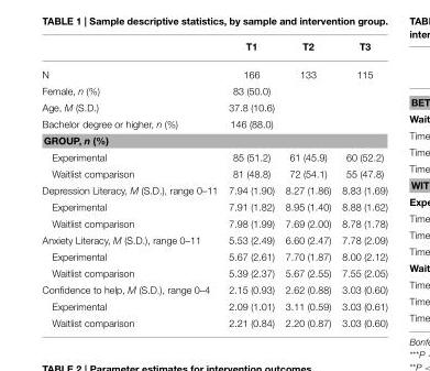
<table><thead><tr><td></td><td>T1</td><td>T2</td><td>T3</td></tr></thead><tbody><tr><td>N</td><td>166</td><td>133</td><td>115</td></tr><tr><td>Female, n (%)</td><td>83 (50.0)</td><td></td><td></td></tr><tr><td>Age, M (S.D.)</td><td>37.8 (10.6)</td><td></td><td></td></tr><tr><td>Bachelor degree or higher, n (%)</td><td>146 (88.0)</td><td></td><td></td></tr><tr><td colspan="4">GROUP, n (%)</td></tr><tr><td>Experimental</td><td>85 (51.2)</td><td>61 (45.9)</td><td>60 (52.2)</td></tr><tr><td>Waitlist comparison</td><td>81 (48.8)</td><td>72 (54.1)</td><td>55 (47.8)</td></tr><tr><td>Depression Literacy, M (S.D.), range 0–11</td><td>7.94 (1.90)</td><td>8.27 (1.86)</td><td>8.83 (1.69)</td></tr><tr><td>Experimental</td><td>7.91 (1.82)</td><td>8.95 (1.40)</td><td>8.88 (1.62)</td></tr><tr><td>Waitlist comparison</td><td>7.98 (1.99)</td><td>7.69 (2.00)</td><td>8.78 (1.78)</td></tr><tr><td>Anxiety Literacy, M (S.D.), range 0–11</td><td>5.53 (2.49)</td><td>6.60 (2.47)</td><td>7.78 (2.09)</td></tr><tr><td>Experimental</td><td>5.67 (2.61)</td><td>7.70 (1.87)</td><td>8.00 (2.12)</td></tr><tr><td>Waitlist comparison</td><td>5.39 (2.37)</td><td>5.67 (2.55)</td><td>7.55 (2.05)</td></tr><tr><td>Confidence to help, M (S.D.), range 0–4</td><td>2.15 (0.93)</td><td>2.62 (0.88)</td><td>3.03 (0.60)</td></tr><tr><td>Experimental</td><td>2.09 (1.01)</td><td>3.11 (0.59)</td><td>3.03 (0.61)</td></tr><tr><td>Waitlist comparison</td><td>2.21 (0.84)</td><td>2.20 (0.87)</td><td>3.03 (0.60)</td></tr></tbody></table>